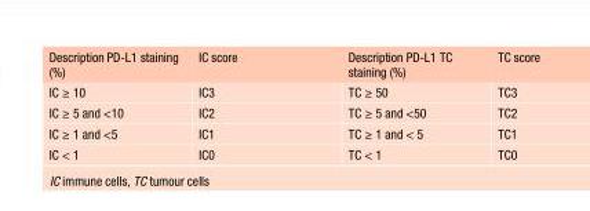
<table><thead><tr><td>Description PD-L1 staining (%)</td><td>IC score</td><td>Description PD-L1 TC staining (%)</td><td>TC score</td></tr></thead><tbody><tr><td>IC ≥ 10</td><td>IC3</td><td>TC ≥ 50</td><td>TC3</td></tr><tr><td>IC ≥ 5 and &lt;10</td><td>IC2</td><td>TC ≥ 5 and &lt;50</td><td>TC2</td></tr><tr><td>IC ≥ 1 and &lt;5</td><td>IC1</td><td>TC ≥ 1 and &lt; 5</td><td>TC1</td></tr><tr><td>IC &lt; 1</td><td>IC0</td><td>TC &lt; 1</td><td>TC0</td></tr></tbody></table>